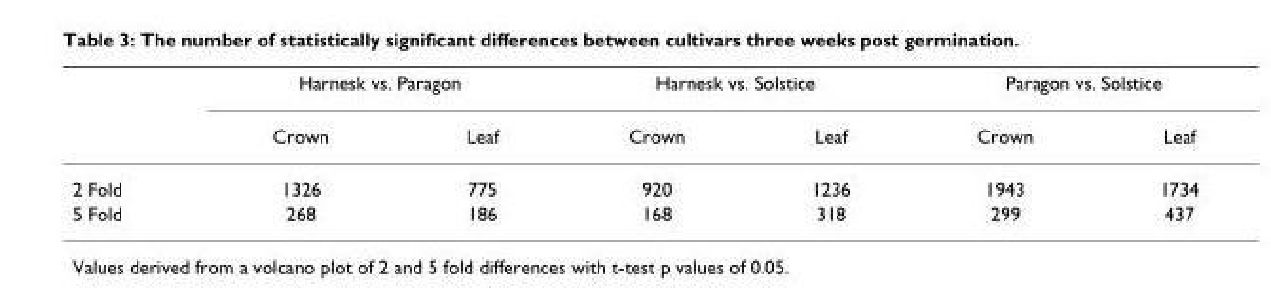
<table><thead><tr><td rowspan="2"></td><td colspan="2">Harnesk vs. Paragon</td><td colspan="2">Harnesk vs. Solstice</td><td colspan="2">Paragon vs. Solstice</td></tr><tr><td>Crown</td><td>Leaf</td><td>Crown</td><td>Leaf</td><td>Crown</td><td>Leaf</td></tr></thead><tbody><tr><td>2 Fold</td><td>1326</td><td>775</td><td>920</td><td>1236</td><td>1943</td><td>1734</td></tr><tr><td>5 Fold</td><td>268</td><td>186</td><td>168</td><td>318</td><td>299</td><td>437</td></tr></tbody></table>